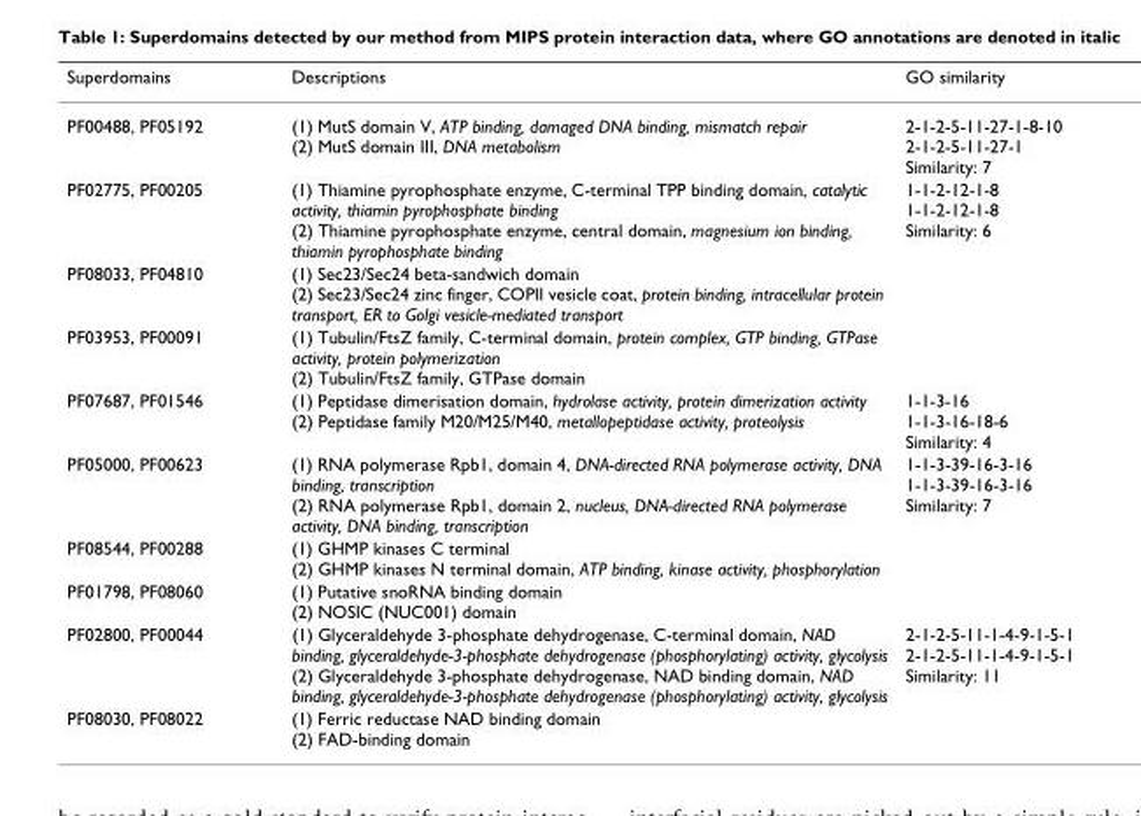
<table><thead><tr><td>Superdomains</td><td>Descriptions</td><td>GO similarity</td></tr></thead><tbody><tr><td>PF00488, PF05192</td><td>(1) MutS domain V, ATP binding, damaged DNA binding, mismatch repair (2) MutS domain III, DNA metabolism</td><td>2-1-2-5-11-27-1-8-10 2-1-2-5-11-27-1 Similarity: 7</td></tr><tr><td>PF02775, PF00205</td><td>(1) Thiamine pyrophosphate enzyme, C-terminal TPP binding domain, catalytic activity, thiamin pyrophosphate binding (2) Thiamine pyrophosphate enzyme, central domain, magnesium ion binding, thiamin pyrophosphate binding</td><td>1-1-2-12-1-8 1-1-2-12-1-8 Similarity: 6</td></tr><tr><td>PF08033, PF04810</td><td>(1) Sec23/Sec24 beta-sandwich domain (2) Sec23/Sec24 zinc finger, COPII vesicle coat, protein binding, intracellular protein transport, ER to Golgi vesicle-mediated transport</td><td></td></tr><tr><td>PF03953, PF00091</td><td>(1) Tubulin/FtsZ family, C-terminal domain, protein complex, GTP binding, GTPase activity, protein polymerization (2) Tubulin/FtsZ family, GTPase domain</td><td></td></tr><tr><td>PF07687, PF01546</td><td>(1) Peptidase dimerisation domain, hydrolase activity, protein dimerization activity (2) Peptidase family M20/M25/M40, metallopeptidase activity, proteolysis</td><td>1-1-3-16 1-1-3-16-18-6 Similarity: 4</td></tr><tr><td>PF05000, PF00623</td><td>(1) RNA polymerase Rpb1, domain 4, DNA-directed RNA polymerase activity, DNA binding, transcription (2) RNA polymerase Rpb1, domain 2, nucleus, DNA-directed RNA polymerase activity, DNA binding, transcription</td><td>1-1-3-39-16-3-16 1-1-3-39-16-3-16 Similarity: 7</td></tr><tr><td>PF08544, PF00288</td><td>(1) GHMP kinases C terminal (2) GHMP kinases N terminal domain, ATP binding, kinase activity, phosphorylation</td><td></td></tr><tr><td>PF01798, PF08060</td><td>(1) Putative snoRNA binding domain (2) NOSIC (NUC001) domain</td><td></td></tr><tr><td>PF02800, PF00044</td><td>(1) Glyceraldehyde 3-phosphate dehydrogenase, C-terminal domain, NAD binding, glyceraldehyde-3-phosphate dehydrogenase (phosphorylating) activity, glycolysis (2) Glyceraldehyde 3-phosphate dehydrogenase, NAD binding domain, NAD binding, glyceraldehyde-3-phosphate dehydrogenase (phosphorylating) activity, glycolysis</td><td>2-1-2-5-11-1-4-9-1-5-1 2-1-2-5-11-1-4-9-1-5-1 Similarity: 11</td></tr><tr><td>PF08030, PF08022</td><td>(1) Ferric reductase NAD binding domain (2) FAD-binding domain</td><td></td></tr></tbody></table>